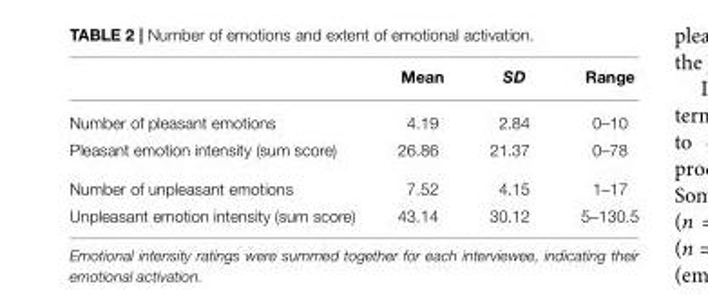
<table><thead><tr><td></td><td>Mean</td><td>SD</td><td>Range</td></tr></thead><tbody><tr><td>Number of pleasant emotions</td><td>4.19</td><td>2.84</td><td>0–10</td></tr><tr><td>Pleasant emotion intensity (sum score)</td><td>26.86</td><td>21.37</td><td>0–78</td></tr><tr><td>Number of unpleasant emotions</td><td>7.52</td><td>4.15</td><td>1–17</td></tr><tr><td>Unpleasant emotion intensity (sum score)</td><td>43.14</td><td>30.12</td><td>5–130.5</td></tr></tbody></table>